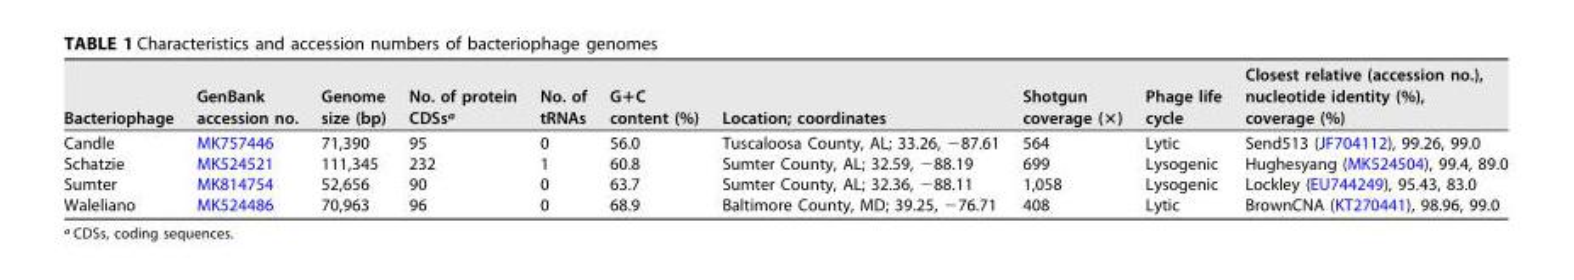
<table><thead><tr><td>Bacteriophage</td><td>GenBank accession no.</td><td>Genome size (bp)</td><td>No. of protein CDSs<sup>a</sup></td><td>No. of tRNAs</td><td>G+C content (%)</td><td>Location; coordinates</td><td>Shotgun coverage (×)</td><td>Phage life cycle</td><td>Closest relative (accession no.), nucleotide identity (%), coverage (%)</td></tr></thead><tbody><tr><td>Candle</td><td>MK757446</td><td>71,390</td><td>95</td><td>0</td><td>56.0</td><td>Tuscaloosa County, AL; 33.26, −87.61</td><td>564</td><td>Lytic</td><td>Send513 (JF704112), 99.26, 99.0</td></tr><tr><td>Schatzie</td><td>MK524521</td><td>111,345</td><td>232</td><td>1</td><td>60.8</td><td>Sumter County, AL; 32.59, −88.19</td><td>699</td><td>Lysogenic</td><td>Hughesyang (MK524504), 99.4, 89.0</td></tr><tr><td>Sumter</td><td>MK814754</td><td>52,656</td><td>90</td><td>0</td><td>63.7</td><td>Sumter County, AL; 32.36, −88.11</td><td>1,058</td><td>Lysogenic</td><td>Lockley (EU744249), 95.43, 83.0</td></tr><tr><td>Waleliano</td><td>MK524486</td><td>70,963</td><td>96</td><td>0</td><td>68.9</td><td>Baltimore County, MD; 39.25, −76.71</td><td>408</td><td>Lytic</td><td>BrownCNA (KT270441), 98.96, 99.0</td></tr></tbody></table>